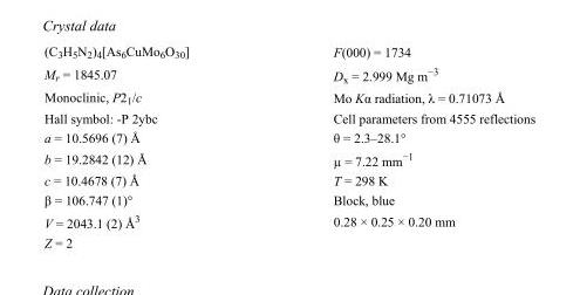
<table><tbody><tr><td>(C<sub>3</sub>H<sub>5</sub>N<sub>2</sub>)<sub>4</sub>[As<sub>6</sub>CuMo<sub>6</sub>O<sub>30</sub>]</td><td>F(000) = 1734</td></tr><tr><td>M<sub>r</sub> = 1845.07</td><td>D<sub>x</sub> = 2.999 Mg m<sup>−3</sup></td></tr><tr><td>Monoclinic, P2<sub>1</sub>/c</td><td>Mo Kα radiation, λ = 0.71073 Å</td></tr><tr><td>Hall symbol: -P 2ybc</td><td>Cell parameters from 4555 reflections</td></tr><tr><td>a = 10.5696 (7) Å</td><td>θ = 2.3–28.1°</td></tr><tr><td>b = 19.2842 (12) Å</td><td>µ = 7.22 mm<sup>−1</sup></td></tr><tr><td>c = 10.4678 (7) Å</td><td>T = 298 K</td></tr><tr><td>β = 106.747 (1)°</td><td>Block, blue</td></tr><tr><td>V = 2043.1 (2) Å<sup>3</sup></td><td>0.28 × 0.25 × 0.20 mm</td></tr><tr><td>Z = 2</td><td></td></tr></tbody></table>